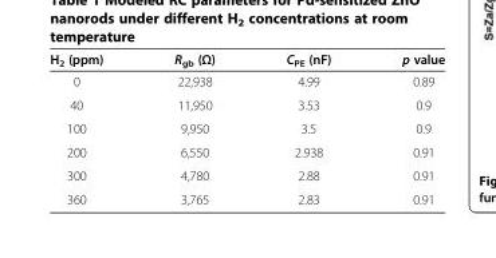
<table><thead><tr><td>H<sub>2</sub> (ppm)</td><td>R<sub>gb</sub> (Ω)</td><td>C<sub>PE</sub> (nF)</td><td>p value</td></tr></thead><tbody><tr><td>0</td><td>22,938</td><td>4.99</td><td>0.89</td></tr><tr><td>40</td><td>11,950</td><td>3.53</td><td>0.9</td></tr><tr><td>100</td><td>9,950</td><td>3.5</td><td>0.9</td></tr><tr><td>200</td><td>6,550</td><td>2.938</td><td>0.91</td></tr><tr><td>300</td><td>4,780</td><td>2.88</td><td>0.91</td></tr><tr><td>360</td><td>3,765</td><td>2.83</td><td>0.91</td></tr></tbody></table>